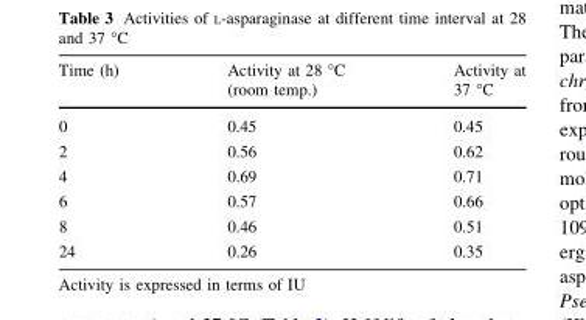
<table><thead><tr><td>Time (h)</td><td>Activity at 28 °C (room temp.)</td><td>Activity at 37 °C</td></tr></thead><tbody><tr><td>0</td><td>0.45</td><td>0.45</td></tr><tr><td>2</td><td>0.56</td><td>0.62</td></tr><tr><td>4</td><td>0.69</td><td>0.71</td></tr><tr><td>6</td><td>0.57</td><td>0.66</td></tr><tr><td>8</td><td>0.46</td><td>0.51</td></tr><tr><td>24</td><td>0.26</td><td>0.35</td></tr></tbody></table>